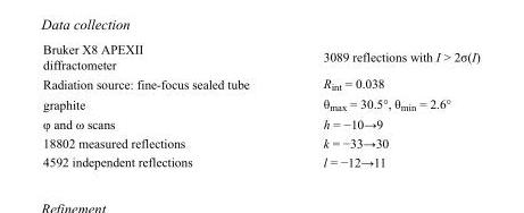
<table><tbody><tr><td>Bruker X8 APEXII diffractometer</td><td>3089 reflections with I &gt; 2σ(I)</td></tr><tr><td>Radiation source: fine-focus sealed tube</td><td>R<sub>int</sub> = 0.038</td></tr><tr><td>graphite</td><td>θ<sub>max</sub> = 30.5°, θ<sub>min</sub> = 2.6°</td></tr><tr><td>φ and ω scans</td><td>h = −10→9</td></tr><tr><td>18802 measured reflections</td><td>k = −33→30</td></tr><tr><td>4592 independent reflections</td><td>l = −12→11</td></tr></tbody></table>